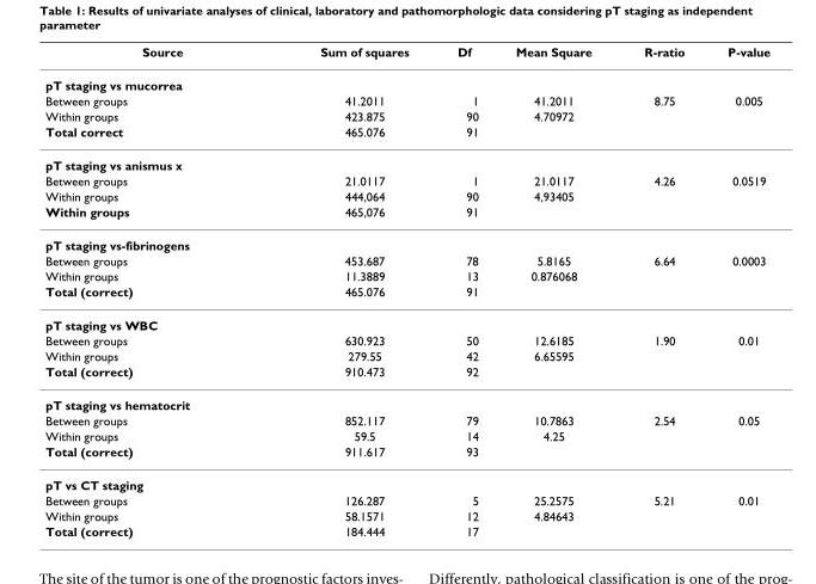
<table><thead><tr><td>Source</td><td>Sum of squares</td><td>Df</td><td>Mean Square</td><td>R-ratio</td><td>P-value</td></tr></thead><tbody><tr><td colspan="6">pT staging vs mucorrea</td></tr><tr><td>Between groups</td><td>41.2011</td><td>1</td><td>41.2011</td><td>8.75</td><td>0.005</td></tr><tr><td>Within groups</td><td>423.875</td><td>90</td><td>4.70972</td><td></td><td></td></tr><tr><td>Total correct</td><td>465.076</td><td>91</td><td></td><td></td><td></td></tr><tr><td colspan="6">pT staging vs anismus x</td></tr><tr><td>Between groups</td><td>21.0117</td><td>1</td><td>21.0117</td><td>4.26</td><td>0.0519</td></tr><tr><td>Within groups</td><td>444,064</td><td>90</td><td>4,93405</td><td></td><td></td></tr><tr><td>Within groups</td><td>465,076</td><td>91</td><td></td><td></td><td></td></tr><tr><td colspan="6">pT staging vs-fibrinogens</td></tr><tr><td>Between groups</td><td>453.687</td><td>78</td><td>5.8165</td><td>6.64</td><td>0.0003</td></tr><tr><td>Within groups</td><td>11.3889</td><td>13</td><td>0.876068</td><td></td><td></td></tr><tr><td>Total (correct)</td><td>465.076</td><td>91</td><td></td><td></td><td></td></tr><tr><td colspan="6">pT staging vs WBC</td></tr><tr><td>Between groups</td><td>630.923</td><td>50</td><td>12.6185</td><td>1.90</td><td>0.01</td></tr><tr><td>Within groups</td><td>279.55</td><td>42</td><td>6.65595</td><td></td><td></td></tr><tr><td>Total (correct)</td><td>910.473</td><td>92</td><td></td><td></td><td></td></tr><tr><td colspan="6">pT staging vs hematocrit</td></tr><tr><td>Between groups</td><td>852.117</td><td>79</td><td>10.7863</td><td>2.54</td><td>0.05</td></tr><tr><td>Within groups</td><td>59.5</td><td>14</td><td>4.25</td><td></td><td></td></tr><tr><td>Total (correct)</td><td>911.617</td><td>93</td><td></td><td></td><td></td></tr><tr><td colspan="6">pT vs CT staging</td></tr><tr><td>Between groups</td><td>126.287</td><td>5</td><td>25.2575</td><td>5.21</td><td>0.01</td></tr><tr><td>Within groups</td><td>58.1571</td><td>12</td><td>4.84643</td><td></td><td></td></tr><tr><td>Total (correct)</td><td>184.444</td><td>17</td><td></td><td></td><td></td></tr></tbody></table>